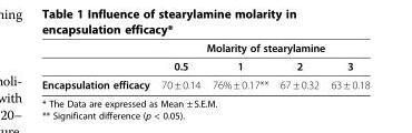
<table><thead><tr><td rowspan="2"></td><td colspan="4">Molarity of stearylamine</td></tr><tr><td>0.5</td><td>1</td><td>2</td><td>3</td></tr></thead><tbody><tr><td>Encapsulation efficacy</td><td>70 ± 0.14</td><td>76% ± 0.17**</td><td>67 ± 0.32</td><td>63 ± 0.18</td></tr></tbody></table>